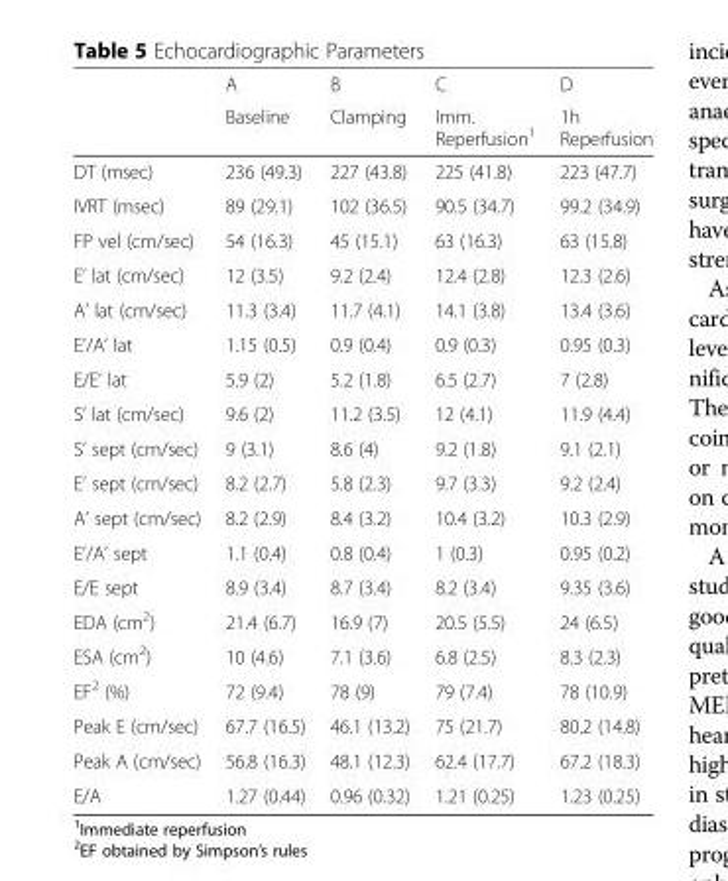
<table><thead><tr><td rowspan="2"></td><td rowspan="2">A Baseline</td><td rowspan="2">B Clamping</td><td rowspan="2">C Imm. Reperfusion<sup>1</sup></td><td rowspan="2">D 1h Reperfusion</td></tr><tr></tr></thead><tbody><tr><td>DT (msec)</td><td>236 (49.3)</td><td>227 (43.8)</td><td>225 (41.8)</td><td>223 (47.7)</td></tr><tr><td>IVRT (msec)</td><td>89 (29.1)</td><td>102 (36.5)</td><td>90.5 (34.7)</td><td>99.2 (34.9)</td></tr><tr><td>FP vel (cm/sec)</td><td>54 (16.3)</td><td>45 (15.1)</td><td>63 (16.3)</td><td>63 (15.8)</td></tr><tr><td>E’ lat (cm/sec)</td><td>12 (3.5)</td><td>9.2 (2.4)</td><td>12.4 (2.8)</td><td>12.3 (2.6)</td></tr><tr><td>A’ lat (cm/sec)</td><td>11.3 (3.4)</td><td>11.7 (4.1)</td><td>14.1 (3.8)</td><td>13.4 (3.6)</td></tr><tr><td>E’/A’ lat</td><td>1.15 (0.5)</td><td>0.9 (0.4)</td><td>0.9 (0.3)</td><td>0.95 (0.3)</td></tr><tr><td>E/E’ lat</td><td>5.9 (2)</td><td>5.2 (1.8)</td><td>6.5 (2.7)</td><td>7 (2.8)</td></tr><tr><td>S’ lat (cm/sec)</td><td>9.6 (2)</td><td>11.2 (3.5)</td><td>12 (4.1)</td><td>11.9 (4.4)</td></tr><tr><td>S’ sept (cm/sec)</td><td>9 (3.1)</td><td>8.6 (4)</td><td>9.2 (1.8)</td><td>9.1 (2.1)</td></tr><tr><td>E’ sept (cm/sec)</td><td>8.2 (2.7)</td><td>5.8 (2.3)</td><td>9.7 (3.3)</td><td>9.2 (2.4)</td></tr><tr><td>A’ sept (cm/sec)</td><td>8.2 (2.9)</td><td>8.4 (3.2)</td><td>10.4 (3.2)</td><td>10.3 (2.9)</td></tr><tr><td>E’/A’ sept</td><td>1.1 (0.4)</td><td>0.8 (0.4)</td><td>1 (0.3)</td><td>0.95 (0.2)</td></tr><tr><td>E/E sept</td><td>8.9 (3.4)</td><td>8.7 (3.4)</td><td>8.2 (3.4)</td><td>9.35 (3.6)</td></tr><tr><td>EDA (cm<sup>2</sup>)</td><td>21.4 (6.7)</td><td>16.9 (7)</td><td>20.5 (5.5)</td><td>24 (6.5)</td></tr><tr><td>ESA (cm<sup>2</sup>)</td><td>10 (4.6)</td><td>7.1 (3.6)</td><td>6.8 (2.5)</td><td>8.3 (2.3)</td></tr><tr><td>EF<sup>2</sup> (%)</td><td>72 (9.4)</td><td>78 (9)</td><td>79 (7.4)</td><td>78 (10.9)</td></tr><tr><td>Peak E (cm/sec)</td><td>67.7 (16.5)</td><td>46.1 (13.2)</td><td>75 (21.7)</td><td>80.2 (14.8)</td></tr><tr><td>Peak A (cm/sec)</td><td>56.8 (16.3)</td><td>48.1 (12.3)</td><td>62.4 (17.7)</td><td>67.2 (18.3)</td></tr><tr><td>E/A</td><td>1.27 (0.44)</td><td>0.96 (0.32)</td><td>1.21 (0.25)</td><td>1.23 (0.25)</td></tr></tbody></table>